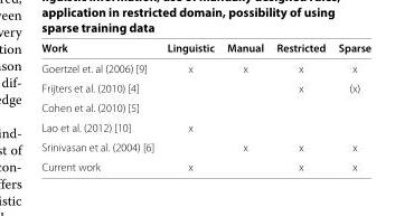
<table><thead><tr><td>Work</td><td>Linguistic</td><td>Manual</td><td>Restricted</td><td>Sparse</td></tr></thead><tbody><tr><td>Goertzel et. al (2006) [9]</td><td>x</td><td>x</td><td>x</td><td>x</td></tr><tr><td>Frijters et al. (2010) [4]</td><td></td><td></td><td>x</td><td>(x)</td></tr><tr><td colspan="5">Cohen et al. (2010) [5]</td></tr><tr><td>Lao et al. (2012) [10]</td><td>x</td><td></td><td></td><td></td></tr><tr><td>Srinivasan et al. (2004) [6]</td><td></td><td>x</td><td>x</td><td>x</td></tr><tr><td>Current work</td><td>x</td><td></td><td>x</td><td>x</td></tr></tbody></table>